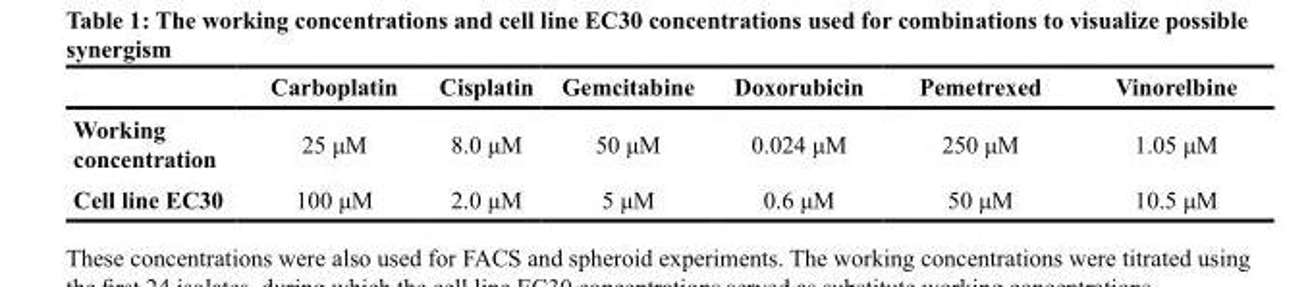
<table><thead><tr><td></td><td>Carboplatin</td><td>Cisplatin</td><td>Gemcitabine</td><td>Doxorubicin</td><td>Pemetrexed</td><td>Vinorelbine</td></tr></thead><tbody><tr><td>Working concentration</td><td>25 μM</td><td>8.0 μM</td><td>50 μM</td><td>0.024 μM</td><td>250 μM</td><td>1.05 μM</td></tr><tr><td>Cell line EC30</td><td>100 μM</td><td>2.0 μM</td><td>5 μM</td><td>0.6 μM</td><td>50 μM</td><td>10.5 μM</td></tr></tbody></table>